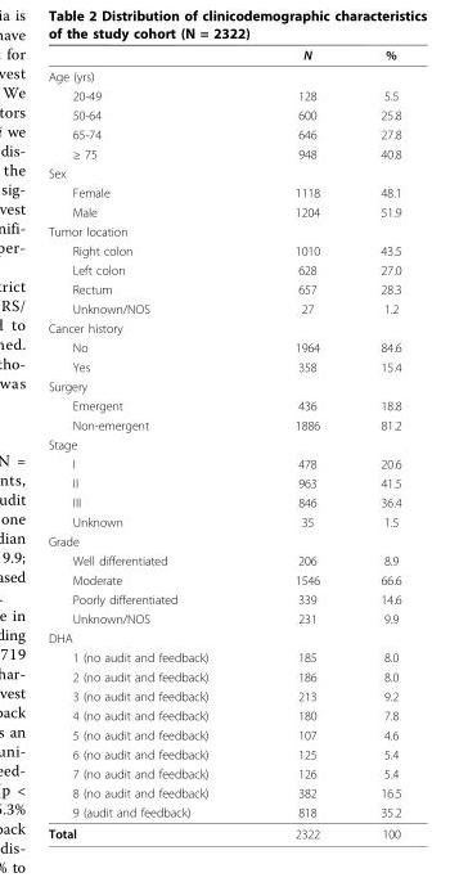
<table><thead><tr><td></td><td>N</td><td>%</td></tr></thead><tbody><tr><td colspan="3">Age (yrs)</td></tr><tr><td>20-49</td><td>128</td><td>5.5</td></tr><tr><td>50-64</td><td>600</td><td>25.8</td></tr><tr><td>65-74</td><td>646</td><td>27.8</td></tr><tr><td>≥ 75</td><td>948</td><td>40.8</td></tr><tr><td colspan="3">Sex</td></tr><tr><td>Female</td><td>1118</td><td>48.1</td></tr><tr><td>Male</td><td>1204</td><td>51.9</td></tr><tr><td colspan="3">Tumor location</td></tr><tr><td>Right colon</td><td>1010</td><td>43.5</td></tr><tr><td>Left colon</td><td>628</td><td>27.0</td></tr><tr><td>Rectum</td><td>657</td><td>28.3</td></tr><tr><td>Unknown/NOS</td><td>27</td><td>1.2</td></tr><tr><td colspan="3">Cancer history</td></tr><tr><td>No</td><td>1964</td><td>84.6</td></tr><tr><td>Yes</td><td>358</td><td>15.4</td></tr><tr><td colspan="3">Surgery</td></tr><tr><td>Emergent</td><td>436</td><td>18.8</td></tr><tr><td>Non-emergent</td><td>1886</td><td>81.2</td></tr><tr><td colspan="3">Stage</td></tr><tr><td>I</td><td>478</td><td>20.6</td></tr><tr><td>II</td><td>963</td><td>41.5</td></tr><tr><td>III</td><td>846</td><td>36.4</td></tr><tr><td>Unknown</td><td>35</td><td>1.5</td></tr><tr><td colspan="3">Grade</td></tr><tr><td>Well differentiated</td><td>206</td><td>8.9</td></tr><tr><td>Moderate</td><td>1546</td><td>66.6</td></tr><tr><td>Poorly differentiated</td><td>339</td><td>14.6</td></tr><tr><td>Unknown/NOS</td><td>231</td><td>9.9</td></tr><tr><td colspan="3">DHA</td></tr><tr><td>1 (no audit and feedback)</td><td>185</td><td>8.0</td></tr><tr><td>2 (no audit and feedback)</td><td>186</td><td>8.0</td></tr><tr><td>3 (no audit and feedback)</td><td>213</td><td>9.2</td></tr><tr><td>4 (no audit and feedback)</td><td>180</td><td>7.8</td></tr><tr><td>5 (no audit and feedback)</td><td>107</td><td>4.6</td></tr><tr><td>6 (no audit and feedback)</td><td>125</td><td>5.4</td></tr><tr><td>7 (no audit and feedback)</td><td>126</td><td>5.4</td></tr><tr><td>8 (no audit and feedback)</td><td>382</td><td>16.5</td></tr><tr><td>9 (audit and feedback)</td><td>818</td><td>35.2</td></tr><tr><td>Total</td><td>2322</td><td>100</td></tr></tbody></table>